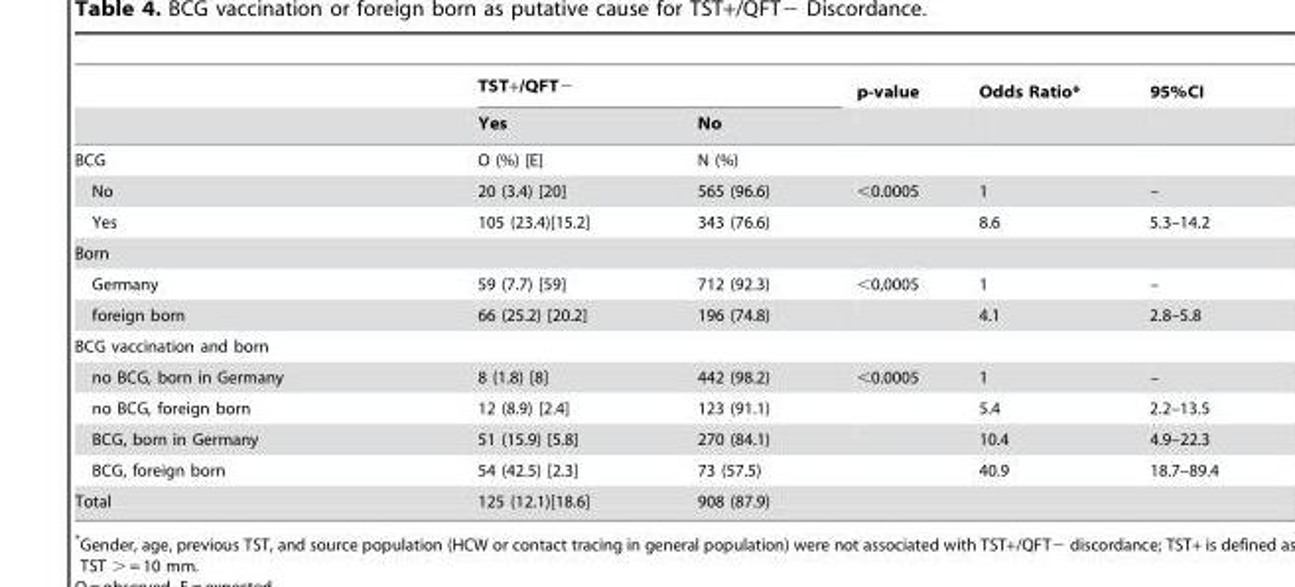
<table><thead><tr><td rowspan="2"></td><td colspan="2">TST+/QFT−</td><td rowspan="2">p-value</td><td rowspan="2">Odds Ratio*</td><td rowspan="2">95%CI</td></tr><tr><td>Yes</td><td>No</td></tr></thead><tbody><tr><td>BCG</td><td>O (%) [E]</td><td>N (%)</td><td></td><td></td><td></td></tr><tr><td>No</td><td>20 (3.4) [20]</td><td>565 (96.6)</td><td>&lt;0.0005</td><td>1</td><td>–</td></tr><tr><td>Yes</td><td>105 (23.4)[15.2]</td><td>343 (76.6)</td><td></td><td>8.6</td><td>5.3–14.2</td></tr><tr><td colspan="6">Born</td></tr><tr><td>Germany</td><td>59 (7.7) [59]</td><td>712 (92.3)</td><td>&lt;0,0005</td><td>1</td><td>–</td></tr><tr><td>foreign born</td><td>66 (25.2) [20.2]</td><td>196 (74.8)</td><td></td><td>4.1</td><td>2.8–5.8</td></tr><tr><td colspan="6">BCG vaccination and born</td></tr><tr><td>no BCG, born in Germany</td><td>8 (1.8) [8]</td><td>442 (98.2)</td><td>&lt;0.0005</td><td>1</td><td>–</td></tr><tr><td>no BCG, foreign born</td><td>12 (8.9) [2.4]</td><td>123 (91.1)</td><td></td><td>5.4</td><td>2.2–13.5</td></tr><tr><td>BCG, born in Germany</td><td>51 (15.9) [5.8]</td><td>270 (84.1)</td><td></td><td>10.4</td><td>4.9–22.3</td></tr><tr><td>BCG, foreign born</td><td>54 (42.5) [2.3]</td><td>73 (57.5)</td><td></td><td>40.9</td><td>18.7–89.4</td></tr><tr><td>Total</td><td>125 (12.1)[18.6]</td><td>908 (87.9)</td><td></td><td></td><td></td></tr></tbody></table>